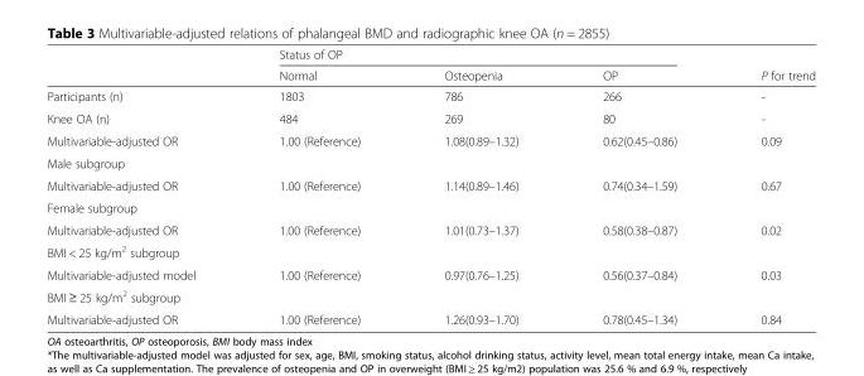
<table><thead><tr><td rowspan="2"></td><td colspan="3">Status of OP</td><td rowspan="2">P for trend</td></tr><tr><td>Normal</td><td>Osteopenia</td><td>OP</td></tr></thead><tbody><tr><td>Participants (n)</td><td>1803</td><td>786</td><td>266</td><td>-</td></tr><tr><td>Knee OA (n)</td><td>484</td><td>269</td><td>80</td><td>-</td></tr><tr><td>Multivariable-adjusted OR</td><td>1.00 (Reference)</td><td>1.08(0.89–1.32)</td><td>0.62(0.45–0.86)</td><td>0.09</td></tr><tr><td colspan="5">Male subgroup</td></tr><tr><td>Multivariable-adjusted OR</td><td>1.00 (Reference)</td><td>1.14(0.89–1.46)</td><td>0.74(0.34–1.59)</td><td>0.67</td></tr><tr><td colspan="5">Female subgroup</td></tr><tr><td>Multivariable-adjusted OR</td><td>1.00 (Reference)</td><td>1.01(0.73–1.37)</td><td>0.58(0.38–0.87)</td><td>0.02</td></tr><tr><td colspan="5">BMI &lt; 25 kg/m<sup>2</sup> subgroup</td></tr><tr><td>Multivariable-adjusted model</td><td>1.00 (Reference)</td><td>0.97(0.76–1.25)</td><td>0.56(0.37–0.84)</td><td>0.03</td></tr><tr><td colspan="5">BMI ≥ 25 kg/m<sup>2</sup> subgroup</td></tr><tr><td>Multivariable-adjusted OR</td><td>1.00 (Reference)</td><td>1.26(0.93–1.70)</td><td>0.78(0.45–1.34)</td><td>0.84</td></tr></tbody></table>